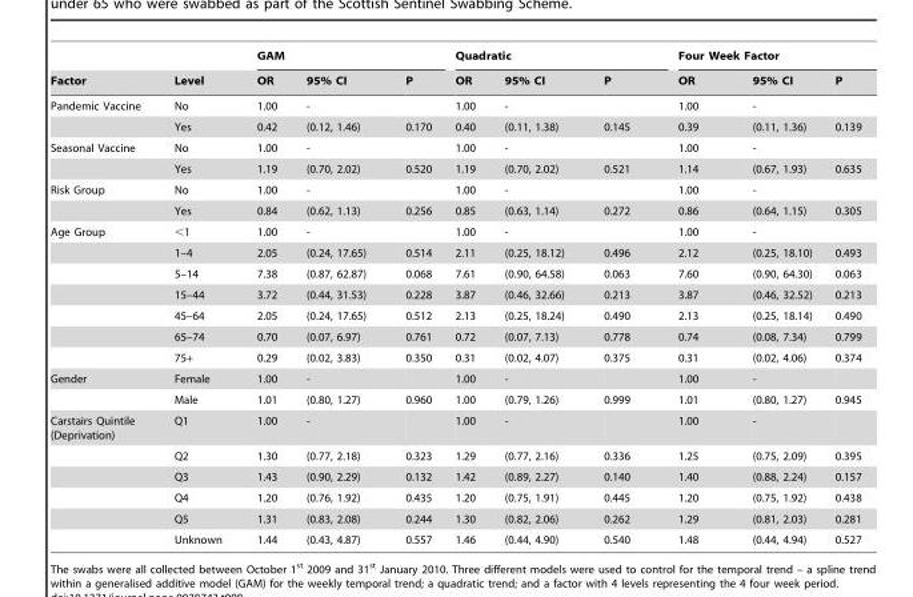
<table><thead><tr><td rowspan="2">Factor</td><td rowspan="2">Level</td><td colspan="3">GAM</td><td colspan="3">Quadratic</td><td colspan="3">Four Week Factor</td></tr><tr><td>OR</td><td>95% CI</td><td>P</td><td>OR</td><td>95% CI</td><td>P</td><td>OR</td><td>95% CI</td><td>P</td></tr></thead><tbody><tr><td rowspan="2">Pandemic Vaccine</td><td>No</td><td>1.00</td><td>-</td><td></td><td>1.00</td><td>-</td><td></td><td>1.00</td><td>-</td><td></td></tr><tr><td>Yes</td><td>0.42</td><td>(0.12, 1.46)</td><td>0.170</td><td>0.40</td><td>(0.11, 1.38)</td><td>0.145</td><td>0.39</td><td>(0.11, 1.36)</td><td>0.139</td></tr><tr><td rowspan="2">Seasonal Vaccine</td><td>No</td><td>1.00</td><td>-</td><td></td><td>1.00</td><td>-</td><td></td><td>1.00</td><td>-</td><td></td></tr><tr><td>Yes</td><td>1.19</td><td>(0.70, 2.02)</td><td>0.520</td><td>1.19</td><td>(0.70, 2.02)</td><td>0.521</td><td>1.14</td><td>(0.67, 1.93)</td><td>0.635</td></tr><tr><td rowspan="2">Risk Group</td><td>No</td><td>1.00</td><td>-</td><td></td><td>1.00</td><td>-</td><td></td><td>1.00</td><td>-</td><td></td></tr><tr><td>Yes</td><td>0.84</td><td>(0.62, 1.13)</td><td>0.256</td><td>0.85</td><td>(0.63, 1.14)</td><td>0.272</td><td>0.86</td><td>(0.64, 1.15)</td><td>0.305</td></tr><tr><td rowspan="7">Age Group</td><td>&lt;1</td><td>1.00</td><td>-</td><td></td><td>1.00</td><td>-</td><td></td><td>1.00</td><td>-</td><td></td></tr><tr><td>1–4</td><td>2.05</td><td>(0.24, 17.65)</td><td>0.514</td><td>2.11</td><td>(0.25, 18.12)</td><td>0.496</td><td>2.12</td><td>(0.25, 18.10)</td><td>0.493</td></tr><tr><td>5–14</td><td>7.38</td><td>(0.87, 62.87)</td><td>0.068</td><td>7.61</td><td>(0.90, 64.58)</td><td>0.063</td><td>7.60</td><td>(0.90, 64.30)</td><td>0.063</td></tr><tr><td>15–44</td><td>3.72</td><td>(0.44, 31.53)</td><td>0.228</td><td>3.87</td><td>(0.46, 32.66)</td><td>0.213</td><td>3.87</td><td>(0.46, 32.52)</td><td>0.213</td></tr><tr><td>45–64</td><td>2.05</td><td>(0.24, 17.65)</td><td>0.512</td><td>2.13</td><td>(0.25, 18.24)</td><td>0.490</td><td>2.13</td><td>(0.25, 18.14)</td><td>0.490</td></tr><tr><td>65–74</td><td>0.70</td><td>(0.07, 6.97)</td><td>0.761</td><td>0.72</td><td>(0.07, 7.13)</td><td>0.778</td><td>0.74</td><td>(0.08, 7.34)</td><td>0.799</td></tr><tr><td>75+</td><td>0.29</td><td>(0.02, 3.83)</td><td>0.350</td><td>0.31</td><td>(0.02, 4.07)</td><td>0.375</td><td>0.31</td><td>(0.02, 4.06)</td><td>0.374</td></tr><tr><td rowspan="2">Gender</td><td>Female</td><td>1.00</td><td>-</td><td></td><td>1.00</td><td>-</td><td></td><td>1.00</td><td>-</td><td></td></tr><tr><td>Male</td><td>1.01</td><td>(0.80, 1.27)</td><td>0.960</td><td>1.00</td><td>(0.79, 1.26)</td><td>0.999</td><td>1.01</td><td>(0.80, 1.27)</td><td>0.945</td></tr><tr><td rowspan="6">Carstairs Quintile (Deprivation)</td><td>Q1</td><td>1.00</td><td>-</td><td></td><td>1.00</td><td>-</td><td></td><td>1.00</td><td>-</td><td></td></tr><tr><td>Q2</td><td>1.30</td><td>(0.77, 2.18)</td><td>0.323</td><td>1.29</td><td>(0.77, 2.16)</td><td>0.336</td><td>1.25</td><td>(0.75, 2.09)</td><td>0.395</td></tr><tr><td>Q3</td><td>1.43</td><td>(0.90, 2.29)</td><td>0.132</td><td>1.42</td><td>(0.89, 2.27)</td><td>0.140</td><td>1.40</td><td>(0.88, 2.24)</td><td>0.157</td></tr><tr><td>Q4</td><td>1.20</td><td>(0.76, 1.92)</td><td>0.435</td><td>1.20</td><td>(0.75, 1.91)</td><td>0.445</td><td>1.20</td><td>(0.75, 1.92)</td><td>0.438</td></tr><tr><td>Q5</td><td>1.31</td><td>(0.83, 2.08)</td><td>0.244</td><td>1.30</td><td>(0.82, 2.06)</td><td>0.262</td><td>1.29</td><td>(0.81, 2.03)</td><td>0.281</td></tr><tr><td>Unknown</td><td>1.44</td><td>(0.43, 4.87)</td><td>0.557</td><td>1.46</td><td>(0.44, 4.90)</td><td>0.540</td><td>1.48</td><td>(0.44, 4.94)</td><td>0.527</td></tr></tbody></table>